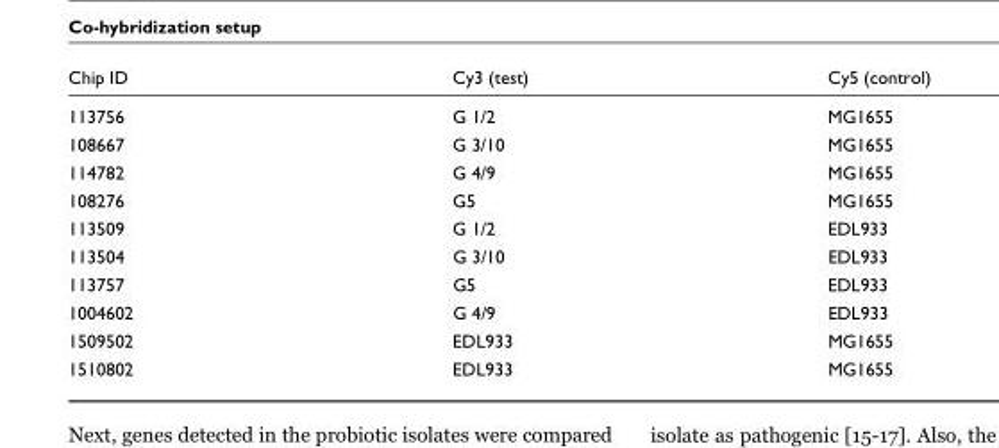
<table><thead><tr><td>Chip ID</td><td>Cy3 (test)</td><td>Cy5 (control)</td></tr></thead><tbody><tr><td>113756</td><td>G 1/2</td><td>MG1655</td></tr><tr><td>108667</td><td>G 3/10</td><td>MG1655</td></tr><tr><td>114782</td><td>G 4/9</td><td>MG1655</td></tr><tr><td>108276</td><td>G5</td><td>MG1655</td></tr><tr><td>113509</td><td>G 1/2</td><td>EDL933</td></tr><tr><td>113504</td><td>G 3/10</td><td>EDL933</td></tr><tr><td>113757</td><td>G5</td><td>EDL933</td></tr><tr><td>1004602</td><td>G 4/9</td><td>EDL933</td></tr><tr><td>1509502</td><td>EDL933</td><td>MG1655</td></tr><tr><td>1510802</td><td>EDL933</td><td>MG1655</td></tr></tbody></table>